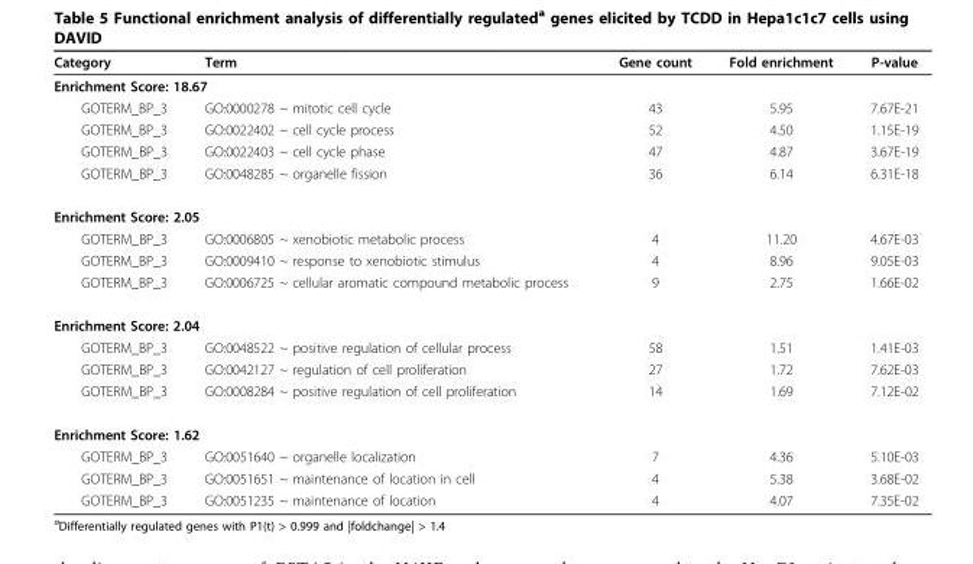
<table><thead><tr><td>Category</td><td>Term</td><td>Gene count</td><td>Fold enrichment</td><td>P-value</td></tr></thead><tbody><tr><td colspan="5">Enrichment Score: 18.67</td></tr><tr><td>GOTERM_BP_3</td><td>GO:0000278 ~ mitotic cell cycle</td><td>43</td><td>5.95</td><td>7.67E-21</td></tr><tr><td>GOTERM_BP_3</td><td>GO:0022402 ~ cell cycle process</td><td>52</td><td>4.50</td><td>1.15E-19</td></tr><tr><td>GOTERM_BP_3</td><td>GO:0022403 ~ cell cycle phase</td><td>47</td><td>4.87</td><td>3.67E-19</td></tr><tr><td>GOTERM_BP_3</td><td>GO:0048285 ~ organelle fission</td><td>36</td><td>6.14</td><td>6.31E-18</td></tr><tr><td colspan="5">Enrichment Score: 2.05</td></tr><tr><td>GOTERM_BP_3</td><td>GO:0006805 ~ xenobiotic metabolic process</td><td>4</td><td>11.20</td><td>4.67E-03</td></tr><tr><td>GOTERM_BP_3</td><td>GO:0009410 ~ response to xenobiotic stimulus</td><td>4</td><td>8.96</td><td>9.05E-03</td></tr><tr><td>GOTERM_BP_3</td><td>GO:0006725 ~ cellular aromatic compound metabolic process</td><td>9</td><td>2.75</td><td>1.66E-02</td></tr><tr><td colspan="5">Enrichment Score: 2.04</td></tr><tr><td>GOTERM_BP_3</td><td>GO:0048522 ~ positive regulation of cellular process</td><td>58</td><td>1.51</td><td>1.41E-03</td></tr><tr><td>GOTERM_BP_3</td><td>GO:0042127 ~ regulation of cell proliferation</td><td>27</td><td>1.72</td><td>7.62E-03</td></tr><tr><td>GOTERM_BP_3</td><td>GO:0008284 ~ positive regulation of cell proliferation</td><td>14</td><td>1.69</td><td>7.12E-02</td></tr><tr><td colspan="5">Enrichment Score: 1.62</td></tr><tr><td>GOTERM_BP_3</td><td>GO:0051640 ~ organelle localization</td><td>7</td><td>4.36</td><td>5.10E-03</td></tr><tr><td>GOTERM_BP_3</td><td>GO:0051651 ~ maintenance of location in cell</td><td>4</td><td>5.38</td><td>3.68E-02</td></tr><tr><td>GOTERM_BP_3</td><td>GO:0051235 ~ maintenance of location</td><td>4</td><td>4.07</td><td>7.35E-02</td></tr></tbody></table>